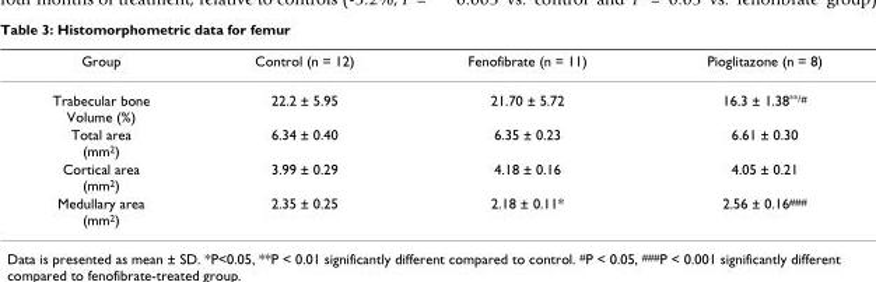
<table><thead><tr><td>Group</td><td>Control (n = 12)</td><td>Fenofibrate (n = 11)</td><td>Pioglitazone (n = 8)</td></tr></thead><tbody><tr><td>Trabecular bone Volume (%)</td><td>22.2 ± 5.95</td><td>21.70 ± 5.72</td><td>16.3 ± 1.38<sup>**/#</sup></td></tr><tr><td>Total area (mm<sup>2</sup>)</td><td>6.34 ± 0.40</td><td>6.35 ± 0.23</td><td>6.61 ± 0.30</td></tr><tr><td>Cortical area (mm<sup>2</sup>)</td><td>3.99 ± 0.29</td><td>4.18 ± 0.16</td><td>4.05 ± 0.21</td></tr><tr><td>Medullary area (mm<sup>2</sup>)</td><td>2.35 ± 0.25</td><td>2.18 ± 0.11*</td><td>2.56 ± 0.16<sup>###</sup></td></tr></tbody></table>